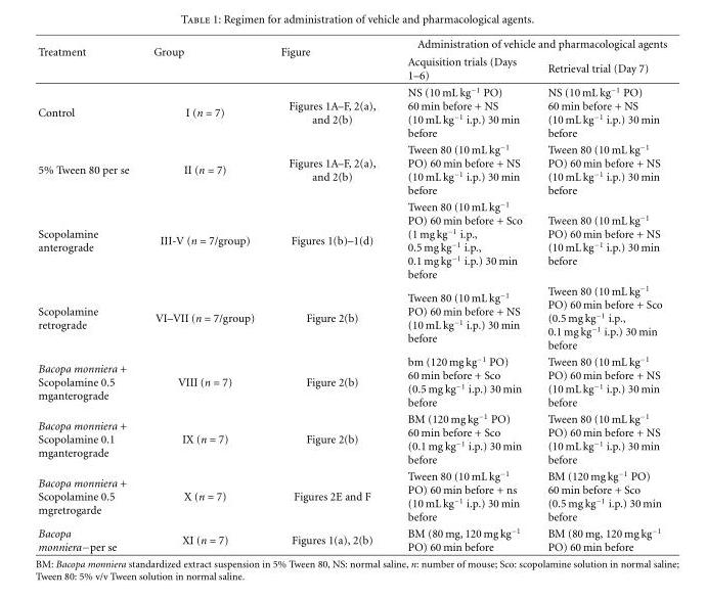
<table><thead><tr><td rowspan="2">Treatment</td><td rowspan="2">Group</td><td rowspan="2">Figure</td><td colspan="2">Administration of vehicle and pharmacological agents</td></tr><tr><td>Acquisition trials (Days 1–6)</td><td>Retrieval trial (Day 7)</td></tr></thead><tbody><tr><td>Control</td><td>I (n = 7)</td><td>Figures 1A–F, 2(a), and 2(b)</td><td>NS (10 mL kg<sup>−1</sup> PO) 60 min before + NS (10 mL kg<sup>−1</sup> i.p.) 30 min before</td><td>NS (10 mL kg<sup>−1</sup> PO) 60 min before + NS (10 mL kg<sup>−1</sup> i.p.) 30 min before</td></tr><tr><td>5% Tween 80 per se</td><td>II (n = 7)</td><td>Figures 1A–F, 2(a), and 2(b)</td><td>Tween 80 (10 mL kg<sup>−1</sup> PO) 60 min before + NS (10 mL kg<sup>−1</sup> i.p.) 30 min before</td><td>Tween 80 (10 mL kg<sup>−1</sup> PO) 60 min before + NS (10 mL kg<sup>−1</sup> i.p.) 30 min before</td></tr><tr><td>Scopolamine anterograde</td><td>III-V (n = 7/group)</td><td>Figures 1(b)–1(d)</td><td>Tween 80 (10 mL kg<sup>−1</sup> PO) 60 min before + Sco (1 mg kg<sup>−1</sup> i.p., 0.5 mg kg<sup>−1</sup> i.p., 0.1 mg kg<sup>−1</sup> i.p.) 30 min before</td><td>Tween 80 (10 mL kg<sup>−1</sup> PO) 60 min before + NS (10 mL kg<sup>−1</sup> i.p.) 30 min before</td></tr><tr><td>Scopolamine retrograde</td><td>VI–VII (n = 7/group)</td><td>Figure 2(b)</td><td>Tween 80 (10 mL kg<sup>−1</sup> PO) 60 min before + NS (10 mL kg<sup>−1</sup> i.p.) 30 min before</td><td>Tween 80 (10 mL kg<sup>−1</sup> PO) 60 min before + Sco (0.5 mg kg<sup>−1</sup> i.p., 0.1 mg kg<sup>−1</sup> i.p.) 30 min before</td></tr><tr><td>Bacopa monniera + Scopolamine 0.5 mganterograde</td><td>VIII (n = 7)</td><td>Figure 2(b)</td><td>bm (120 mg kg<sup>−1</sup> PO) 60 min before + Sco (0.5 mg kg<sup>−1</sup> i.p.) 30 min before</td><td>Tween 80 (10 mL kg<sup>−1</sup> PO) 60 min before + NS (10 mL kg<sup>−1</sup> i.p.) 30 min before</td></tr><tr><td>Bacopa monniera + Scopolamine 0.1 mganterograde</td><td>IX (n = 7)</td><td>Figure 2(b)</td><td>BM (120 mg kg<sup>−1</sup> PO) 60 min before + Sco (0.1 mg kg<sup>−1</sup> i.p.) 30 min before</td><td>Tween 80 (10 mL kg<sup>−1</sup> PO) 60 min before + NS (10 mL kg<sup>−1</sup> i.p.) 30 min before</td></tr><tr><td>Bacopa monniera + Scopolamine 0.5 mgretrogarde</td><td>X (n = 7)</td><td>Figures 2E and F</td><td>Tween 80 (10 mL kg<sup>−1</sup> PO) 60 min before + ns (10 mL kg<sup>−1</sup> i.p.) 30 min before</td><td>BM (120 mg kg<sup>−1</sup> PO) 60 min before + Sco (0.5 mg kg<sup>−1</sup> i.p.) 30 min before</td></tr><tr><td>Bacopa monniera−per se</td><td>XI (n = 7)</td><td>Figures 1(a), 2(b)</td><td>BM (80 mg, 120 mg kg<sup>−1</sup> PO) 60 min before</td><td>BM (80 mg, 120 mg kg<sup>−1</sup> PO) 60 min before</td></tr></tbody></table>